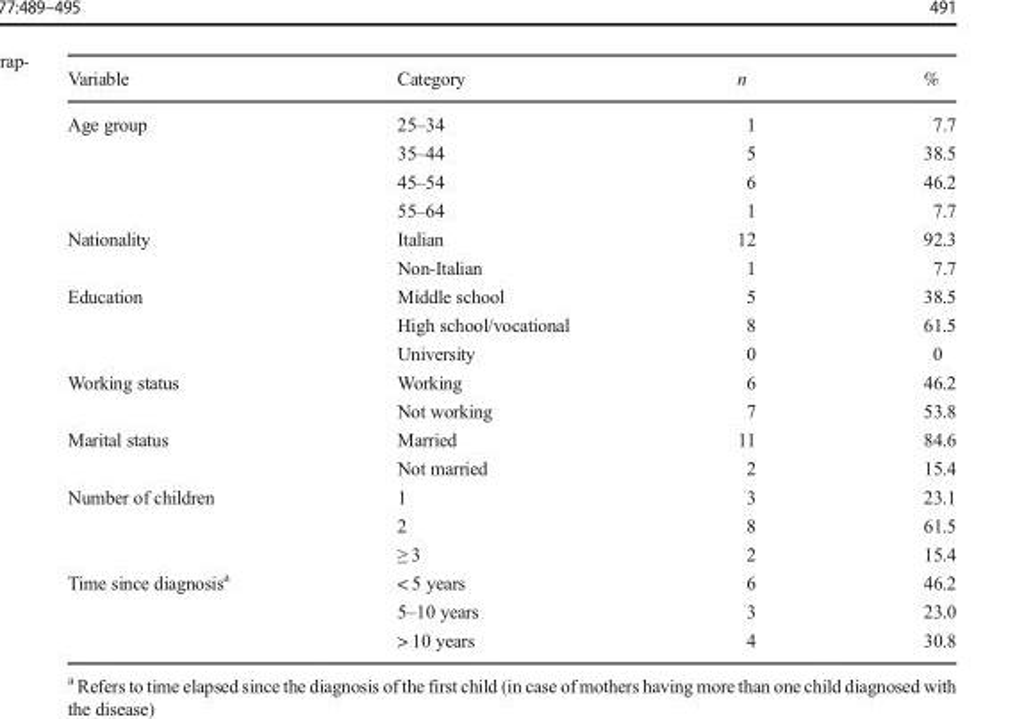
<table><thead><tr><td>Variable</td><td>Category</td><td>n</td><td>%</td></tr></thead><tbody><tr><td rowspan="4">Age group</td><td>25–34</td><td>1</td><td>7.7</td></tr><tr><td>35–44</td><td>5</td><td>38.5</td></tr><tr><td>45–54</td><td>6</td><td>46.2</td></tr><tr><td>55–64</td><td>1</td><td>7.7</td></tr><tr><td rowspan="2">Nationality</td><td>Italian</td><td>12</td><td>92.3</td></tr><tr><td>Non-Italian</td><td>1</td><td>7.7</td></tr><tr><td rowspan="3">Education</td><td>Middle school</td><td>5</td><td>38.5</td></tr><tr><td>High school/vocational</td><td>8</td><td>61.5</td></tr><tr><td>University</td><td>0</td><td>0</td></tr><tr><td rowspan="2">Working status</td><td>Working</td><td>6</td><td>46.2</td></tr><tr><td>Not working</td><td>7</td><td>53.8</td></tr><tr><td rowspan="2">Marital status</td><td>Married</td><td>11</td><td>84.6</td></tr><tr><td>Not married</td><td>2</td><td>15.4</td></tr><tr><td rowspan="3">Number of children</td><td>1</td><td>3</td><td>23.1</td></tr><tr><td>2</td><td>8</td><td>61.5</td></tr><tr><td>≥ 3</td><td>2</td><td>15.4</td></tr><tr><td rowspan="3">Time since diagnosis<sup>a</sup></td><td>&lt; 5 years</td><td>6</td><td>46.2</td></tr><tr><td>5–10 years</td><td>3</td><td>23.0</td></tr><tr><td>&gt; 10 years</td><td>4</td><td>30.8</td></tr></tbody></table>